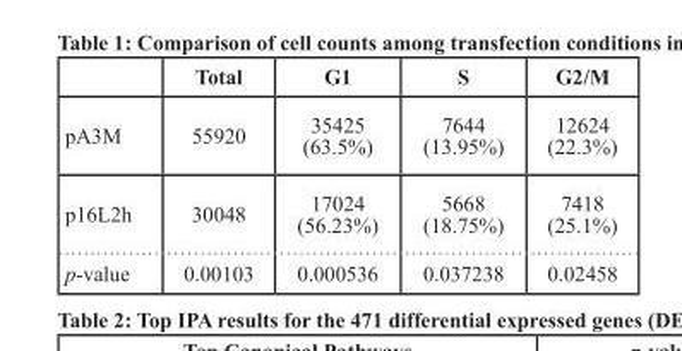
<table><thead><tr><td></td><td>Total</td><td>G1</td><td>S</td><td>G2/M</td></tr></thead><tbody><tr><td>pA3M</td><td>55920</td><td>35425 (63.5%)</td><td>7644 (13.95%)</td><td>12624 (22.3%)</td></tr><tr><td>p16L2h</td><td>30048</td><td>17024 (56.23%)</td><td>5668 (18.75%)</td><td>7418 (25.1%)</td></tr><tr><td>p-value</td><td>0.00103</td><td>0.000536</td><td>0.037238</td><td>0.02458</td></tr></tbody></table>